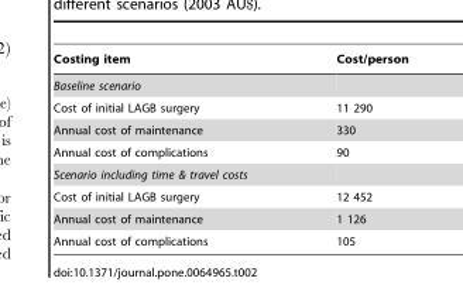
<table><thead><tr><td>Costing item</td><td>Cost/person</td></tr></thead><tbody><tr><td colspan="2">Baseline scenario</td></tr><tr><td>Cost of initial LAGB surgery</td><td>11 290</td></tr><tr><td>Annual cost of maintenance</td><td>330</td></tr><tr><td>Annual cost of complications</td><td>90</td></tr><tr><td colspan="2">Scenario including time &amp; travel costs</td></tr><tr><td>Cost of initial LAGB surgery</td><td>12 452</td></tr><tr><td>Annual cost of maintenance</td><td>1 126</td></tr><tr><td>Annual cost of complications</td><td>105</td></tr></tbody></table>